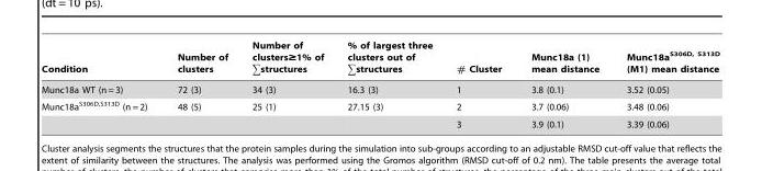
<table><thead><tr><td>Condition</td><td>Number of clusters</td><td>Number of clusters≥1% of ∑structures</td><td>% of largest three clusters out of ∑structures</td><td># Cluster</td><td>Munc18a (1) mean distance</td><td>Munc18a<sup>S306D, S313D</sup> (M1) mean distance</td></tr></thead><tbody><tr><td>Munc18a WT (n = 3)</td><td>72 (3)</td><td>34 (3)</td><td>16.3 (3)</td><td>1</td><td>3.8 (0.1)</td><td>3.52 (0.05)</td></tr><tr><td rowspan="2">Munc18a<sup>S306D,S313D</sup> (n = 2)</td><td>48 (5)</td><td>25 (1)</td><td>27.15 (3)</td><td>2</td><td>3.7 (0.06)</td><td>3.48 (0.06)</td></tr><tr><td></td><td></td><td></td><td>3</td><td>3.9 (0.1)</td><td>3.39 (0.06)</td></tr></tbody></table>